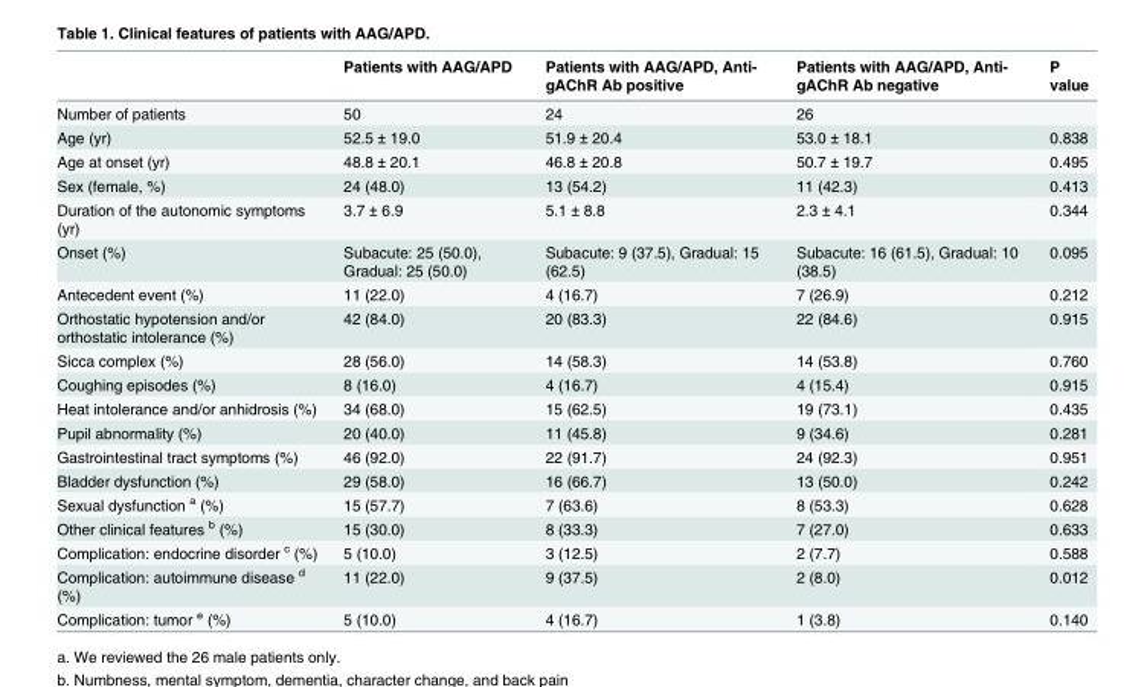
<table><thead><tr><td></td><td>Patients with AAG/APD</td><td>Patients with AAG/APD, Anti- gAChR Ab positive</td><td>Patients with AAG/APD, Anti- gAChR Ab negative</td><td>P value</td></tr></thead><tbody><tr><td>Number of patients</td><td>50</td><td>24</td><td>26</td><td></td></tr><tr><td>Age (yr)</td><td>52.5 ± 19.0</td><td>51.9 ± 20.4</td><td>53.0 ± 18.1</td><td>0.838</td></tr><tr><td>Age at onset (yr)</td><td>48.8 ± 20.1</td><td>46.8 ± 20.8</td><td>50.7 ± 19.7</td><td>0.495</td></tr><tr><td>Sex (female, %)</td><td>24 (48.0)</td><td>13 (54.2)</td><td>11 (42.3)</td><td>0.413</td></tr><tr><td>Duration of the autonomic symptoms (yr)</td><td>3.7 ± 6.9</td><td>5.1 ± 8.8</td><td>2.3 ± 4.1</td><td>0.344</td></tr><tr><td>Onset (%)</td><td>Subacute: 25 (50.0), Gradual: 25 (50.0)</td><td>Subacute: 9 (37.5), Gradual: 15 (62.5)</td><td>Subacute: 16 (61.5), Gradual: 10 (38.5)</td><td>0.095</td></tr><tr><td>Antecedent event (%)</td><td>11 (22.0)</td><td>4 (16.7)</td><td>7 (26.9)</td><td>0.212</td></tr><tr><td>Orthostatic hypotension and/or orthostatic intolerance (%)</td><td>42 (84.0)</td><td>20 (83.3)</td><td>22 (84.6)</td><td>0.915</td></tr><tr><td>Sicca complex (%)</td><td>28 (56.0)</td><td>14 (58.3)</td><td>14 (53.8)</td><td>0.760</td></tr><tr><td>Coughing episodes (%)</td><td>8 (16.0)</td><td>4 (16.7)</td><td>4 (15.4)</td><td>0.915</td></tr><tr><td>Heat intolerance and/or anhidrosis (%)</td><td>34 (68.0)</td><td>15 (62.5)</td><td>19 (73.1)</td><td>0.435</td></tr><tr><td>Pupil abnormality (%)</td><td>20 (40.0)</td><td>11 (45.8)</td><td>9 (34.6)</td><td>0.281</td></tr><tr><td>Gastrointestinal tract symptoms (%)</td><td>46 (92.0)</td><td>22 (91.7)</td><td>24 (92.3)</td><td>0.951</td></tr><tr><td>Bladder dysfunction (%)</td><td>29 (58.0)</td><td>16 (66.7)</td><td>13 (50.0)</td><td>0.242</td></tr><tr><td>Sexual dysfunction <sup>a</sup> (%)</td><td>15 (57.7)</td><td>7 (63.6)</td><td>8 (53.3)</td><td>0.628</td></tr><tr><td>Other clinical features <sup>b</sup> (%)</td><td>15 (30.0)</td><td>8 (33.3)</td><td>7 (27.0)</td><td>0.633</td></tr><tr><td>Complication: endocrine disorder <sup>c</sup> (%)</td><td>5 (10.0)</td><td>3 (12.5)</td><td>2 (7.7)</td><td>0.588</td></tr><tr><td>Complication: autoimmune disease <sup>d</sup> (%)</td><td>11 (22.0)</td><td>9 (37.5)</td><td>2 (8.0)</td><td>0.012</td></tr><tr><td>Complication: tumor <sup>e</sup> (%)</td><td>5 (10.0)</td><td>4 (16.7)</td><td>1 (3.8)</td><td>0.140</td></tr></tbody></table>